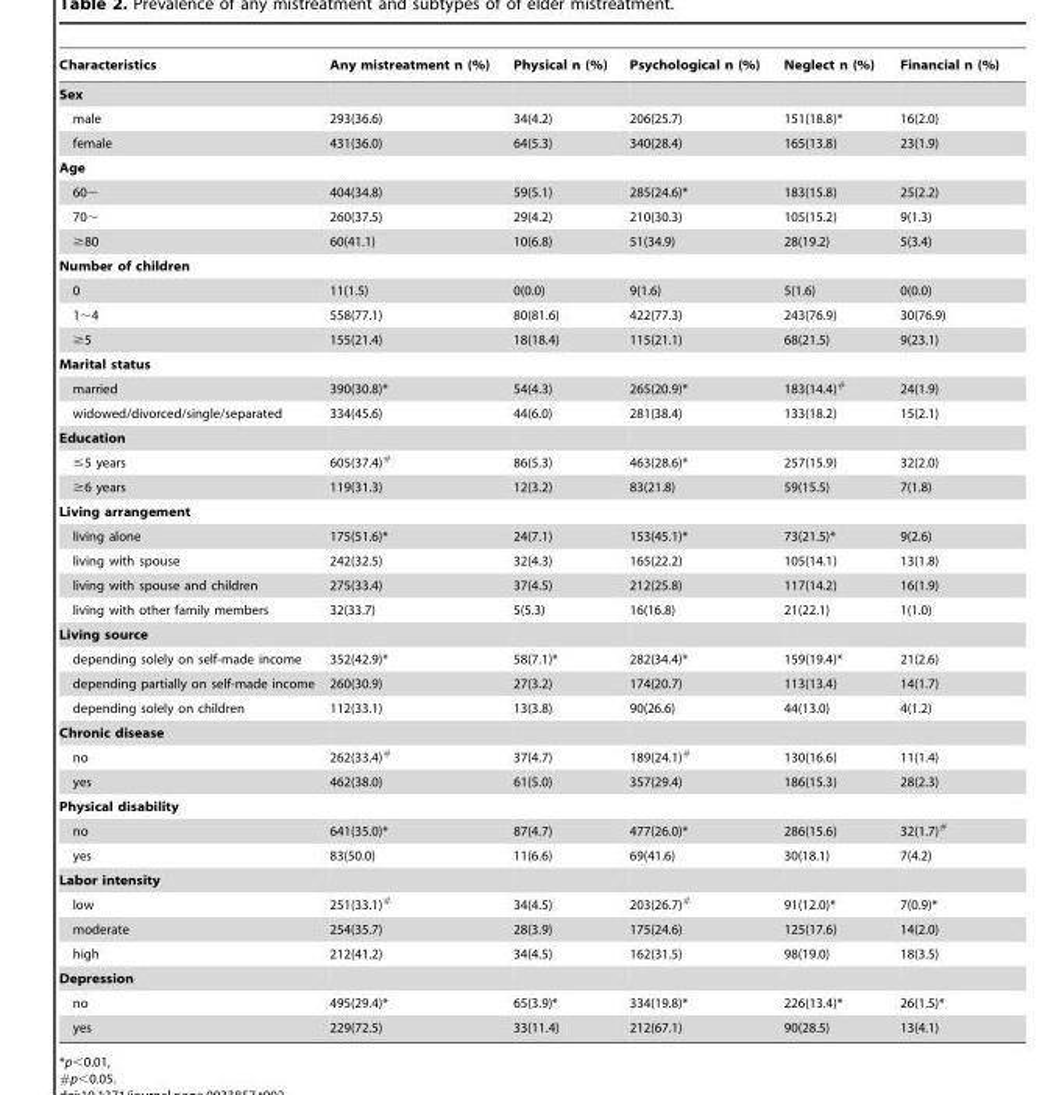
<table><thead><tr><td>Characteristics</td><td>Any mistreatment n (%)</td><td>Physical n (%)</td><td>Psychological n (%)</td><td>Neglect n (%)</td><td>Financial n (%)</td></tr></thead><tbody><tr><td colspan="6">Sex</td></tr><tr><td>male</td><td>293(36.6)</td><td>34(4.2)</td><td>206(25.7)</td><td>151(18.8)*</td><td>16(2.0)</td></tr><tr><td>female</td><td>431(36.0)</td><td>64(5.3)</td><td>340(28.4)</td><td>165(13.8)</td><td>23(1.9)</td></tr><tr><td colspan="6">Age</td></tr><tr><td>60∼</td><td>404(34.8)</td><td>59(5.1)</td><td>285(24.6)*</td><td>183(15.8)</td><td>25(2.2)</td></tr><tr><td>70∼</td><td>260(37.5)</td><td>29(4.2)</td><td>210(30.3)</td><td>105(15.2)</td><td>9(1.3)</td></tr><tr><td>≥80</td><td>60(41.1)</td><td>10(6.8)</td><td>51(34.9)</td><td>28(19.2)</td><td>5(3.4)</td></tr><tr><td colspan="6">Number of children</td></tr><tr><td>0</td><td>11(1.5)</td><td>0(0.0)</td><td>9(1.6)</td><td>5(1.6)</td><td>0(0.0)</td></tr><tr><td>1∼4</td><td>558(77.1)</td><td>80(81.6)</td><td>422(77.3)</td><td>243(76.9)</td><td>30(76.9)</td></tr><tr><td>≥5</td><td>155(21.4)</td><td>18(18.4)</td><td>115(21.1)</td><td>68(21.5)</td><td>9(23.1)</td></tr><tr><td colspan="6">Marital status</td></tr><tr><td>married</td><td>390(30.8)*</td><td>54(4.3)</td><td>265(20.9)*</td><td>183(14.4)#</td><td>24(1.9)</td></tr><tr><td>widowed/divorced/single/separated</td><td>334(45.6)</td><td>44(6.0)</td><td>281(38.4)</td><td>133(18.2)</td><td>15(2.1)</td></tr><tr><td colspan="6">Education</td></tr><tr><td>≤5 years</td><td>605(37.4)#</td><td>86(5.3)</td><td>463(28.6)*</td><td>257(15.9)</td><td>32(2.0)</td></tr><tr><td>≥6 years</td><td>119(31.3)</td><td>12(3.2)</td><td>83(21.8)</td><td>59(15.5)</td><td>7(1.8)</td></tr><tr><td colspan="6">Living arrangement</td></tr><tr><td>living alone</td><td>175(51.6)*</td><td>24(7.1)</td><td>153(45.1)*</td><td>73(21.5)*</td><td>9(2.6)</td></tr><tr><td>living with spouse</td><td>242(32.5)</td><td>32(4.3)</td><td>165(22.2)</td><td>105(14.1)</td><td>13(1.8)</td></tr><tr><td>living with spouse and children</td><td>275(33.4)</td><td>37(4.5)</td><td>212(25.8)</td><td>117(14.2)</td><td>16(1.9)</td></tr><tr><td>living with other family members</td><td>32(33.7)</td><td>5(5.3)</td><td>16(16.8)</td><td>21(22.1)</td><td>1(1.0)</td></tr><tr><td colspan="6">Living source</td></tr><tr><td>depending solely on self-made income</td><td>352(42.9)*</td><td>58(7.1)*</td><td>282(34.4)*</td><td>159(19.4)*</td><td>21(2.6)</td></tr><tr><td>depending partially on self-made income</td><td>260(30.9)</td><td>27(3.2)</td><td>174(20.7)</td><td>113(13.4)</td><td>14(1.7)</td></tr><tr><td>depending solely on children</td><td>112(33.1)</td><td>13(3.8)</td><td>90(26.6)</td><td>44(13.0)</td><td>4(1.2)</td></tr><tr><td colspan="6">Chronic disease</td></tr><tr><td>no</td><td>262(33.4)#</td><td>37(4.7)</td><td>189(24.1)#</td><td>130(16.6)</td><td>11(1.4)</td></tr><tr><td>yes</td><td>462(38.0)</td><td>61(5.0)</td><td>357(29.4)</td><td>186(15.3)</td><td>28(2.3)</td></tr><tr><td colspan="6">Physical disability</td></tr><tr><td>no</td><td>641(35.0)*</td><td>87(4.7)</td><td>477(26.0)*</td><td>286(15.6)</td><td>32(1.7)#</td></tr><tr><td>yes</td><td>83(50.0)</td><td>11(6.6)</td><td>69(41.6)</td><td>30(18.1)</td><td>7(4.2)</td></tr><tr><td colspan="6">Labor intensity</td></tr><tr><td>low</td><td>251(33.1)#</td><td>34(4.5)</td><td>203(26.7)#</td><td>91(12.0)*</td><td>7(0.9)*</td></tr><tr><td>moderate</td><td>254(35.7)</td><td>28(3.9)</td><td>175(24.6)</td><td>125(17.6)</td><td>14(2.0)</td></tr><tr><td>high</td><td>212(41.2)</td><td>34(4.5)</td><td>162(31.5)</td><td>98(19.0)</td><td>18(3.5)</td></tr><tr><td colspan="6">Depression</td></tr><tr><td>no</td><td>495(29.4)*</td><td>65(3.9)*</td><td>334(19.8)*</td><td>226(13.4)*</td><td>26(1.5)*</td></tr><tr><td>yes</td><td>229(72.5)</td><td>33(11.4)</td><td>212(67.1)</td><td>90(28.5)</td><td>13(4.1)</td></tr></tbody></table>